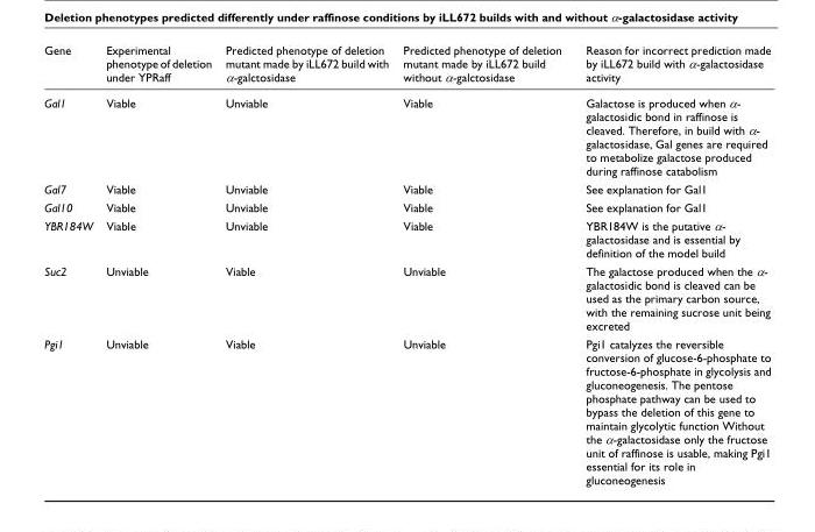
<table><thead><tr><td>Gene</td><td>Experimental phenotype of deletion under YPRaff</td><td>Predicted phenotype of deletion mutant made by iLL672 build with α-galctosidase</td><td>Predicted phenotype of deletion mutant made by iLL672 build without α-galctosidase</td><td>Reason for incorrect prediction made by iLL672 build with α-galactosidase activity</td></tr></thead><tbody><tr><td>Gal1</td><td>Viable</td><td>Unviable</td><td>Viable</td><td>Galactose is produced when α- galactosidic bond in raffinose is cleaved. Therefore, in build with α- galactosidase, Gal genes are required to metabolize galactose produced during raffinose catabolism</td></tr><tr><td>Gal7</td><td>Viable</td><td>Unviable</td><td>Viable</td><td>See explanation for Gal1</td></tr><tr><td>Gal10</td><td>Viable</td><td>Unviable</td><td>Viable</td><td>See explanation for Gal1</td></tr><tr><td>YBR184W</td><td>Viable</td><td>Unviable</td><td>Viable</td><td>YBR184W is the putative α- galactosidase and is essential by definition of the model build</td></tr><tr><td>Suc2</td><td>Unviable</td><td>Viable</td><td>Unviable</td><td>The galactose produced when the α- galactosidic bond is cleaved can be used as the primary carbon source, with the remaining sucrose unit being excreted</td></tr><tr><td>Pgi1</td><td>Unviable</td><td>Viable</td><td>Unviable</td><td>Pgi1 catalyzes the reversible conversion of glucose-6-phosphate to fructose-6-phosphate in glycolysis and gluconeogenesis. The pentose phosphate pathway can be used to bypass the deletion of this gene to maintain glycolytic function Without the α-galactosidase only the fructose unit of raffinose is usable, making Pgi1 essential for its role in gluconeogenesis</td></tr></tbody></table>